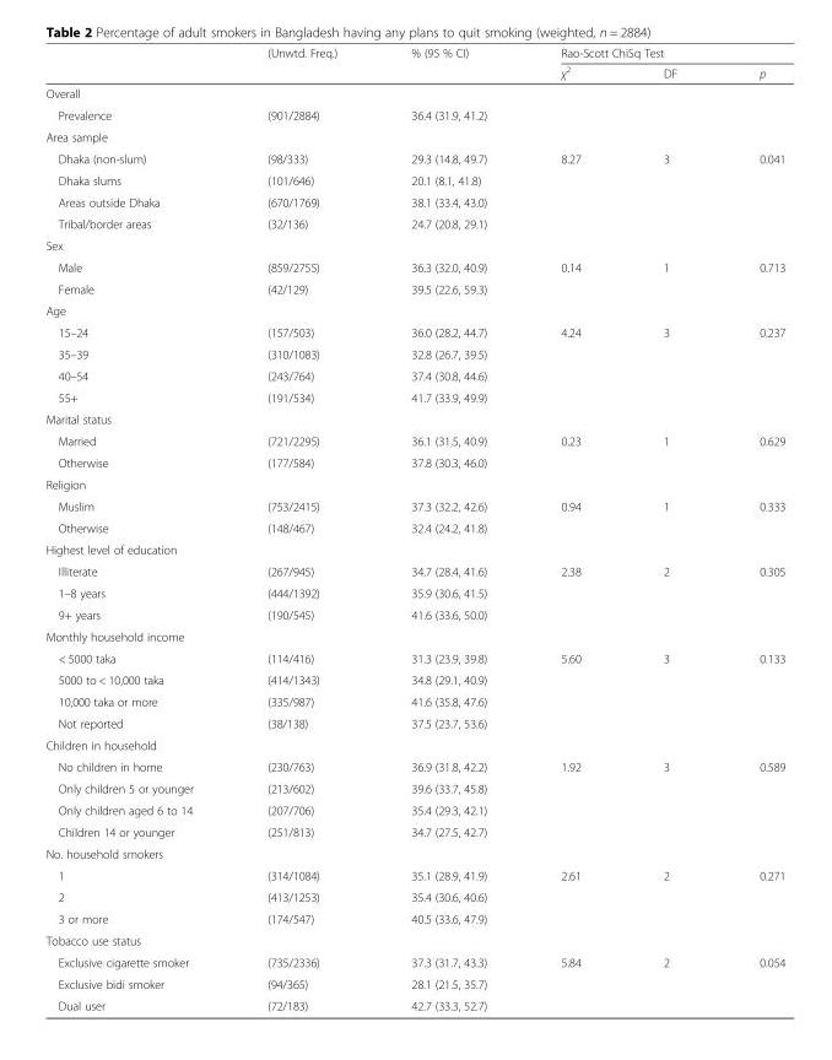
<table><thead><tr><td rowspan="2"></td><td rowspan="2">(Unwtd. Freq.)</td><td rowspan="2">% (95 % CI)</td><td colspan="3">Rao-Scott ChiSq Test</td></tr><tr><td>χ<sup>2</sup></td><td>DF</td><td>p</td></tr></thead><tbody><tr><td colspan="6">Overall</td></tr><tr><td>Prevalence</td><td>(901/2884)</td><td>36.4 (31.9, 41.2)</td><td></td><td></td><td></td></tr><tr><td colspan="6">Area sample</td></tr><tr><td>Dhaka (non-slum)</td><td>(98/333)</td><td>29.3 (14.8, 49.7)</td><td>8.27</td><td>3</td><td>0.041</td></tr><tr><td>Dhaka slums</td><td>(101/646)</td><td>20.1 (8.1, 41.8)</td><td></td><td></td><td></td></tr><tr><td>Areas outside Dhaka</td><td>(670/1769)</td><td>38.1 (33.4, 43.0)</td><td></td><td></td><td></td></tr><tr><td>Tribal/border areas</td><td>(32/136)</td><td>24.7 (20.8, 29.1)</td><td></td><td></td><td></td></tr><tr><td colspan="6">Sex</td></tr><tr><td>Male</td><td>(859/2755)</td><td>36.3 (32.0, 40.9)</td><td>0.14</td><td>1</td><td>0.713</td></tr><tr><td>Female</td><td>(42/129)</td><td>39.5 (22.6, 59.3)</td><td></td><td></td><td></td></tr><tr><td colspan="6">Age</td></tr><tr><td>15–24</td><td>(157/503)</td><td>36.0 (28.2, 44.7)</td><td>4.24</td><td>3</td><td>0.237</td></tr><tr><td>35–39</td><td>(310/1083)</td><td>32.8 (26.7, 39.5)</td><td></td><td></td><td></td></tr><tr><td>40–54</td><td>(243/764)</td><td>37.4 (30.8, 44.6)</td><td></td><td></td><td></td></tr><tr><td>55+</td><td>(191/534)</td><td>41.7 (33.9, 49.9)</td><td></td><td></td><td></td></tr><tr><td colspan="6">Marital status</td></tr><tr><td>Married</td><td>(721/2295)</td><td>36.1 (31.5, 40.9)</td><td>0.23</td><td>1</td><td>0.629</td></tr><tr><td>Otherwise</td><td>(177/584)</td><td>37.8 (30.3, 46.0)</td><td></td><td></td><td></td></tr><tr><td colspan="6">Religion</td></tr><tr><td>Muslim</td><td>(753/2415)</td><td>37.3 (32.2, 42.6)</td><td>0.94</td><td>1</td><td>0.333</td></tr><tr><td>Otherwise</td><td>(148/467)</td><td>32.4 (24.2, 41.8)</td><td></td><td></td><td></td></tr><tr><td colspan="6">Highest level of education</td></tr><tr><td>Illiterate</td><td>(267/945)</td><td>34.7 (28.4, 41.6)</td><td>2.38</td><td>2</td><td>0.305</td></tr><tr><td>1–8 years</td><td>(444/1392)</td><td>35.9 (30.6, 41.5)</td><td></td><td></td><td></td></tr><tr><td>9+ years</td><td>(190/545)</td><td>41.6 (33.6, 50.0)</td><td></td><td></td><td></td></tr><tr><td colspan="6">Monthly household income</td></tr><tr><td>&lt; 5000 taka</td><td>(114/416)</td><td>31.3 (23.9, 39.8)</td><td>5.60</td><td>3</td><td>0.133</td></tr><tr><td>5000 to &lt; 10,000 taka</td><td>(414/1343)</td><td>34.8 (29.1, 40.9)</td><td></td><td></td><td></td></tr><tr><td>10,000 taka or more</td><td>(335/987)</td><td>41.6 (35.8, 47.6)</td><td></td><td></td><td></td></tr><tr><td>Not reported</td><td>(38/138)</td><td>37.5 (23.7, 53.6)</td><td></td><td></td><td></td></tr><tr><td colspan="6">Children in household</td></tr><tr><td>No children in home</td><td>(230/763)</td><td>36.9 (31.8, 42.2)</td><td>1.92</td><td>3</td><td>0.589</td></tr><tr><td>Only children 5 or younger</td><td>(213/602)</td><td>39.6 (33.7, 45.8)</td><td></td><td></td><td></td></tr><tr><td>Only children aged 6 to 14</td><td>(207/706)</td><td>35.4 (29.3, 42.1)</td><td></td><td></td><td></td></tr><tr><td>Children 14 or younger</td><td>(251/813)</td><td>34.7 (27.5, 42.7)</td><td></td><td></td><td></td></tr><tr><td colspan="6">No. household smokers</td></tr><tr><td>1</td><td>(314/1084)</td><td>35.1 (28.9, 41.9)</td><td>2.61</td><td>2</td><td>0.271</td></tr><tr><td>2</td><td>(413/1253)</td><td>35.4 (30.6, 40.6)</td><td></td><td></td><td></td></tr><tr><td>3 or more</td><td>(174/547)</td><td>40.5 (33.6, 47.9)</td><td></td><td></td><td></td></tr><tr><td colspan="6">Tobacco use status</td></tr><tr><td>Exclusive cigarette smoker</td><td>(735/2336)</td><td>37.3 (31.7, 43.3)</td><td>5.84</td><td>2</td><td>0.054</td></tr><tr><td>Exclusive bidi smoker</td><td>(94/365)</td><td>28.1 (21.5, 35.7)</td><td></td><td></td><td></td></tr><tr><td>Dual user</td><td>(72/183)</td><td>42.7 (33.3, 52.7)</td><td></td><td></td><td></td></tr></tbody></table>